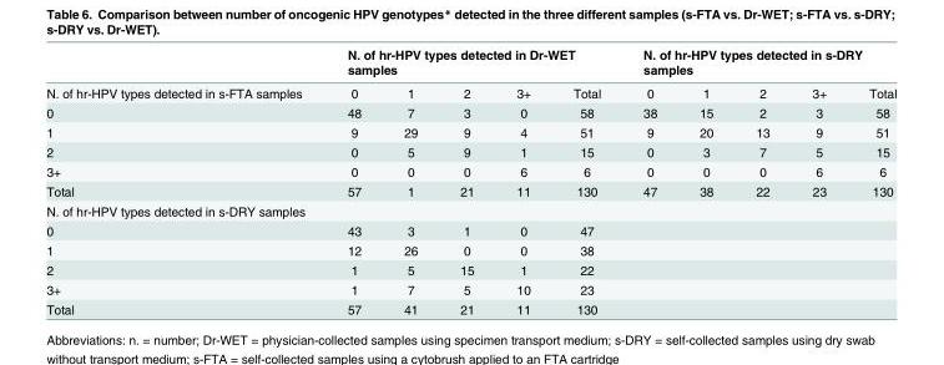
<table><thead><tr><td rowspan="2">N. of hr-HPV types detected in s-FTA samples</td><td colspan="5">N. of hr-HPV types detected in Dr-WET samples</td><td colspan="5">N. of hr-HPV types detected in s-DRY samples</td></tr><tr><td>0</td><td>1</td><td>2</td><td>3+</td><td>Total</td><td>0</td><td>1</td><td>2</td><td>3+</td><td>Total</td></tr></thead><tbody><tr><td>0</td><td>48</td><td>7</td><td>3</td><td>0</td><td>58</td><td>38</td><td>15</td><td>2</td><td>3</td><td>58</td></tr><tr><td>1</td><td>9</td><td>29</td><td>9</td><td>4</td><td>51</td><td>9</td><td>20</td><td>13</td><td>9</td><td>51</td></tr><tr><td>2</td><td>0</td><td>5</td><td>9</td><td>1</td><td>15</td><td>0</td><td>3</td><td>7</td><td>5</td><td>15</td></tr><tr><td>3+</td><td>0</td><td>0</td><td>0</td><td>6</td><td>6</td><td>0</td><td>0</td><td>0</td><td>6</td><td>6</td></tr><tr><td>Total</td><td>57</td><td>1</td><td>21</td><td>11</td><td>130</td><td>47</td><td>38</td><td>22</td><td>23</td><td>130</td></tr><tr><td colspan="11">N. of hr-HPV types detected in s-DRY samples</td></tr><tr><td>0</td><td>43</td><td>3</td><td>1</td><td>0</td><td>47</td><td></td><td></td><td></td><td></td><td></td></tr><tr><td>1</td><td>12</td><td>26</td><td>0</td><td>0</td><td>38</td><td></td><td></td><td></td><td></td><td></td></tr><tr><td>2</td><td>1</td><td>5</td><td>15</td><td>1</td><td>22</td><td></td><td></td><td></td><td></td><td></td></tr><tr><td>3+</td><td>1</td><td>7</td><td>5</td><td>10</td><td>23</td><td></td><td></td><td></td><td></td><td></td></tr><tr><td>Total</td><td>57</td><td>41</td><td>21</td><td>11</td><td>130</td><td></td><td></td><td></td><td></td><td></td></tr></tbody></table>